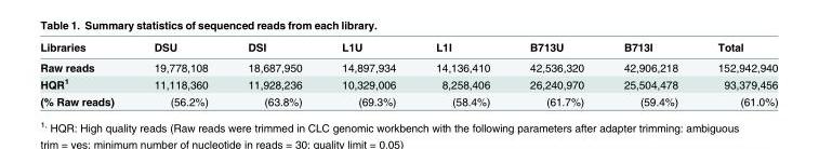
<table><thead><tr><td>Libraries</td><td>DSU</td><td>DSI</td><td>L1U</td><td>L1I</td><td>B713U</td><td>B713I</td><td>Total</td></tr></thead><tbody><tr><td>Raw reads</td><td>19,778,108</td><td>18,687,950</td><td>14,897,934</td><td>14,136,410</td><td>42,536,320</td><td>42,906,218</td><td>152,942,940</td></tr><tr><td>HQR<sup>1</sup></td><td>11,118,360</td><td>11,928,236</td><td>10,329,006</td><td>8,258,406</td><td>26,240,970</td><td>25,504,478</td><td>93,379,456</td></tr><tr><td>(% Raw reads)</td><td>(56.2%)</td><td>(63.8%)</td><td>(69.3%)</td><td>(58.4%)</td><td>(61.7%)</td><td>(59.4%)</td><td>(61.0%)</td></tr></tbody></table>